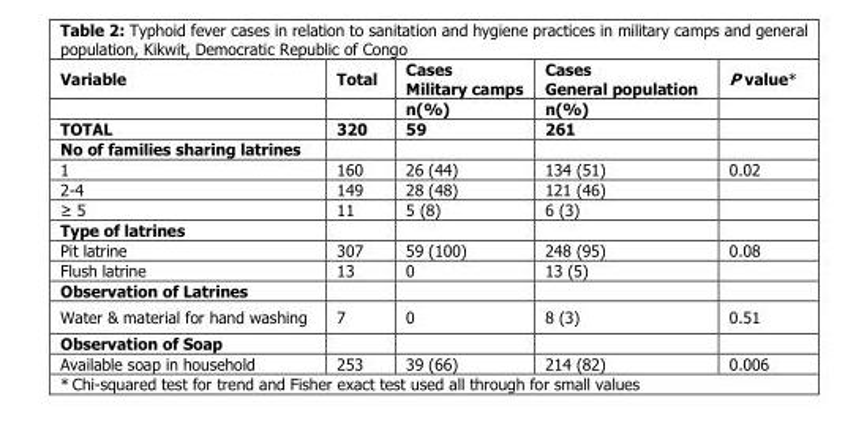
<table><thead><tr><td>Variable</td><td>Total</td><td>Cases Military camps</td><td>Cases General population</td><td>P value*</td></tr></thead><tbody><tr><td></td><td></td><td>n(%)</td><td>n(%)</td><td></td></tr><tr><td>TOTAL</td><td>320</td><td>59</td><td>261</td><td></td></tr><tr><td colspan="5">No of families sharing latrines</td></tr><tr><td>1</td><td>160</td><td>26 (44)</td><td>134 (51)</td><td>0.02</td></tr><tr><td>2-4</td><td>149</td><td>28 (48)</td><td>121 (46)</td><td></td></tr><tr><td>≥ 5</td><td>11</td><td>5 (8)</td><td>6 (3)</td><td></td></tr><tr><td colspan="5">Type of latrines</td></tr><tr><td>Pit latrine</td><td>307</td><td>59 (100)</td><td>248 (95)</td><td>0.08</td></tr><tr><td>Flush latrine</td><td>13</td><td>0</td><td>13 (5)</td><td></td></tr><tr><td colspan="5">Observation of Latrines</td></tr><tr><td>Water &amp; material for hand washing</td><td>7</td><td>0</td><td>8 (3)</td><td>0.51</td></tr><tr><td colspan="5">Observation of Soap</td></tr><tr><td>Available soap in household</td><td>253</td><td>39 (66)</td><td>214 (82)</td><td>0.006</td></tr></tbody></table>